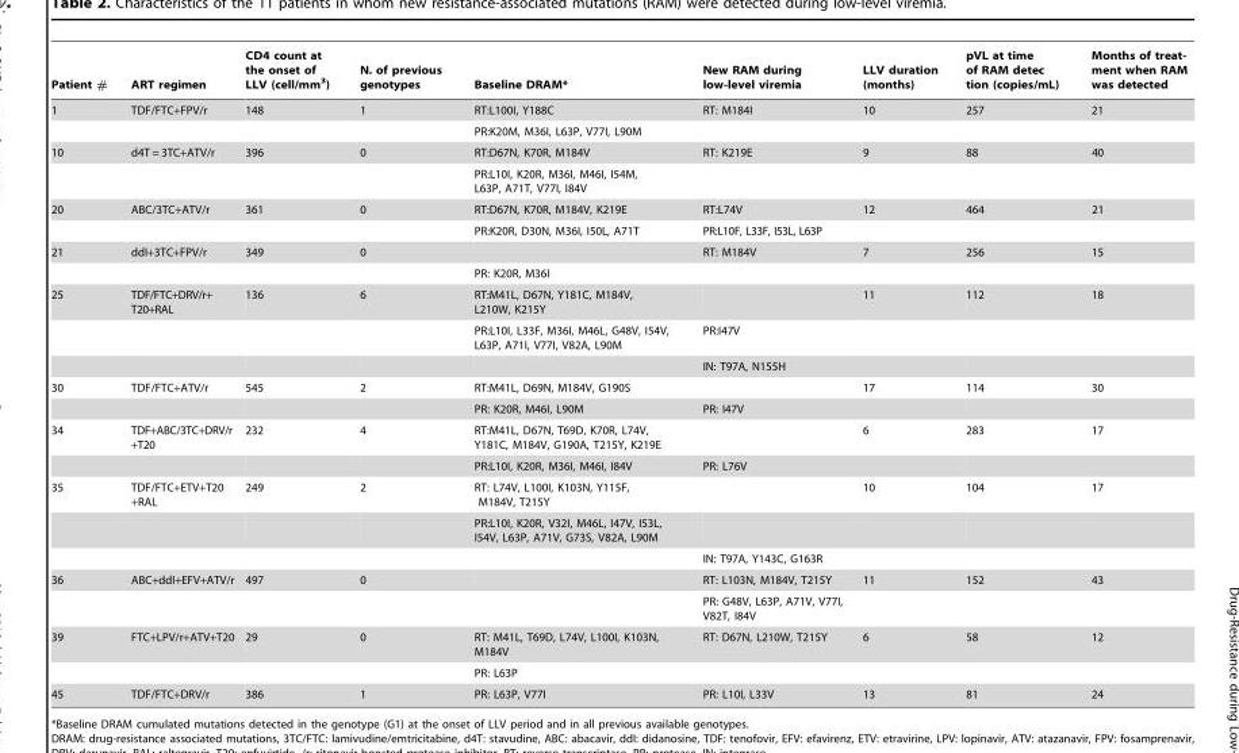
<table><thead><tr><td>Patient #</td><td>ART regimen</td><td>CD4 count at the onset of LLV (cell/mm<sup>3</sup>)</td><td>N. of previous genotypes</td><td>Baseline DRAM*</td><td>New RAM during low-level viremia</td><td>LLV duration (months)</td><td>pVL at time of RAM detec tion (copies/mL)</td><td>Months of treat- ment when RAM was detected</td></tr></thead><tbody><tr><td rowspan="2">1</td><td>TDF/FTC+FPV/r</td><td>148</td><td>1</td><td>RT:L100I, Y188C</td><td>RT: M184I</td><td>10</td><td>257</td><td>21</td></tr><tr><td></td><td></td><td></td><td>PR:K20M, M36I, L63P, V77I, L90M</td><td></td><td></td><td></td><td></td></tr><tr><td rowspan="2">10</td><td>d4T = 3TC+ATV/r</td><td>396</td><td>0</td><td>RT:D67N, K70R, M184V</td><td>RT: K219E</td><td>9</td><td>88</td><td>40</td></tr><tr><td></td><td></td><td></td><td>PR:L10I, K20R, M36I, M46I, I54M, L63P, A71T, V77I, I84V</td><td></td><td></td><td></td><td></td></tr><tr><td rowspan="2">20</td><td>ABC/3TC+ATV/r</td><td>361</td><td>0</td><td>RT:D67N, K70R, M184V, K219E</td><td>RT:L74V</td><td>12</td><td>464</td><td>21</td></tr><tr><td></td><td></td><td></td><td>PR:K20R, D30N, M36I, I50L, A71T</td><td>PR:L10F, L33F, I53L, L63P</td><td></td><td></td><td></td></tr><tr><td rowspan="2">21</td><td>ddI+3TC+FPV/r</td><td>349</td><td>0</td><td></td><td>RT: M184V</td><td>7</td><td>256</td><td>15</td></tr><tr><td></td><td></td><td></td><td>PR: K20R, M36I</td><td></td><td></td><td></td><td></td></tr><tr><td rowspan="3">25</td><td>TDF/FTC+DRV/r+ T20+RAL</td><td>136</td><td>6</td><td>RT:M41L, D67N, Y181C, M184V, L210W, K215Y</td><td></td><td>11</td><td>112</td><td>18</td></tr><tr><td></td><td></td><td></td><td>PR:L10I, L33F, M36I, M46L, G48V, I54V, L63P, A71I, V77I, V82A, L90M</td><td>PR:I47V</td><td></td><td></td><td></td></tr><tr><td></td><td></td><td></td><td></td><td>IN: T97A, N155H</td><td></td><td></td><td></td></tr><tr><td rowspan="2">30</td><td>TDF/FTC+ATV/r</td><td>545</td><td>2</td><td>RT:M41L, D69N, M184V, G190S</td><td></td><td>17</td><td>114</td><td>30</td></tr><tr><td></td><td></td><td></td><td>PR: K20R, M46I, L90M</td><td>PR: I47V</td><td></td><td></td><td></td></tr><tr><td rowspan="2">34</td><td>TDF+ABC/3TC+DRV/r +T20</td><td>232</td><td>4</td><td>RT:M41L, D67N, T69D, K70R, L74V, Y181C, M184V, G190A, T215Y, K219E</td><td></td><td>6</td><td>283</td><td>17</td></tr><tr><td></td><td></td><td></td><td>PR:L10I, K20R, M36I, M46I, I84V</td><td>PR: L76V</td><td></td><td></td><td></td></tr><tr><td rowspan="3">35</td><td>TDF/FTC+ETV+T20 +RAL</td><td>249</td><td>2</td><td>RT: L74V, L100I, K103N, Y115F, M184V, T215Y</td><td></td><td>10</td><td>104</td><td>17</td></tr><tr><td></td><td></td><td></td><td>PR:L10I, K20R, V32I, M46L, I47V, I53L, I54V, L63P, A71V, G73S, V82A, L90M</td><td></td><td></td><td></td><td></td></tr><tr><td></td><td></td><td></td><td></td><td>IN: T97A, Y143C, G163R</td><td></td><td></td><td></td></tr><tr><td rowspan="2">36</td><td>ABC+ddI+EFV+ATV/r</td><td>497</td><td>0</td><td></td><td>RT: L103N, M184V, T215Y</td><td>11</td><td>152</td><td>43</td></tr><tr><td></td><td></td><td></td><td></td><td>PR: G48V, L63P, A71V, V77I, V82T, I84V</td><td></td><td></td><td></td></tr><tr><td rowspan="2">39</td><td>FTC+LPV/r+ATV+T20</td><td>29</td><td>0</td><td>RT: M41L, T69D, L74V, L100I, K103N, M184V</td><td>RT: D67N, L210W, T215Y</td><td>6</td><td>58</td><td>12</td></tr><tr><td></td><td></td><td></td><td>PR: L63P</td><td></td><td></td><td></td><td></td></tr><tr><td>45</td><td>TDF/FTC+DRV/r</td><td>386</td><td>1</td><td>PR: L63P, V77I</td><td>PR: L10I, L33V</td><td>13</td><td>81</td><td>24</td></tr></tbody></table>